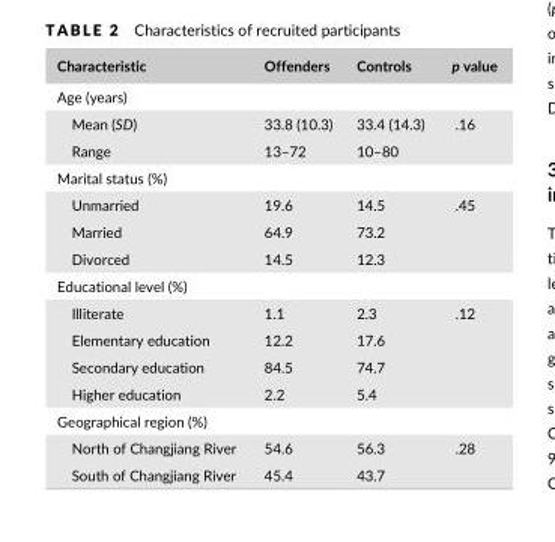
<table><thead><tr><td>Characteristic</td><td>Offenders</td><td>Controls</td><td>p value</td></tr></thead><tbody><tr><td colspan="4">Age (years)</td></tr><tr><td>Mean (SD)</td><td>33.8 (10.3)</td><td>33.4 (14.3)</td><td rowspan="2">.16</td></tr><tr><td>Range</td><td>13–72</td><td>10–80</td></tr><tr><td colspan="4">Marital status (%)</td></tr><tr><td>Unmarried</td><td>19.6</td><td>14.5</td><td rowspan="3">.45</td></tr><tr><td>Married</td><td>64.9</td><td>73.2</td></tr><tr><td>Divorced</td><td>14.5</td><td>12.3</td></tr><tr><td colspan="4">Educational level (%)</td></tr><tr><td>Illiterate</td><td>1.1</td><td>2.3</td><td rowspan="4">.12</td></tr><tr><td>Elementary education</td><td>12.2</td><td>17.6</td></tr><tr><td>Secondary education</td><td>84.5</td><td>74.7</td></tr><tr><td>Higher education</td><td>2.2</td><td>5.4</td></tr><tr><td colspan="4">Geographical region (%)</td></tr><tr><td>North of Changjiang River</td><td>54.6</td><td>56.3</td><td rowspan="2">.28</td></tr><tr><td>South of Changjiang River</td><td>45.4</td><td>43.7</td></tr></tbody></table>